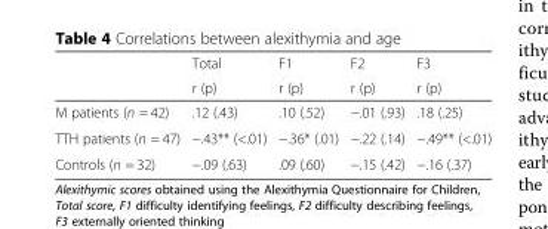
<table><thead><tr><td rowspan="2"></td><td rowspan="2">Total r (p)</td><td rowspan="2">F1 r (p)</td><td rowspan="2">F2 r (p)</td><td rowspan="2">F3 r (p)</td></tr><tr></tr></thead><tbody><tr><td>M patients (n = 42)</td><td>.12 (.43)</td><td>.10 (.52)</td><td>−.01 (.93)</td><td>.18 (.25)</td></tr><tr><td>TTH patients (n = 47)</td><td>−.43** (&lt;.01)</td><td>−.36* (.01)</td><td>−.22 (.14)</td><td>−.49** (&lt;.01)</td></tr><tr><td>Controls (n = 32)</td><td>−.09 (.63)</td><td>.09 (.60)</td><td>−.15 (.42)</td><td>−.16 (.37)</td></tr></tbody></table>